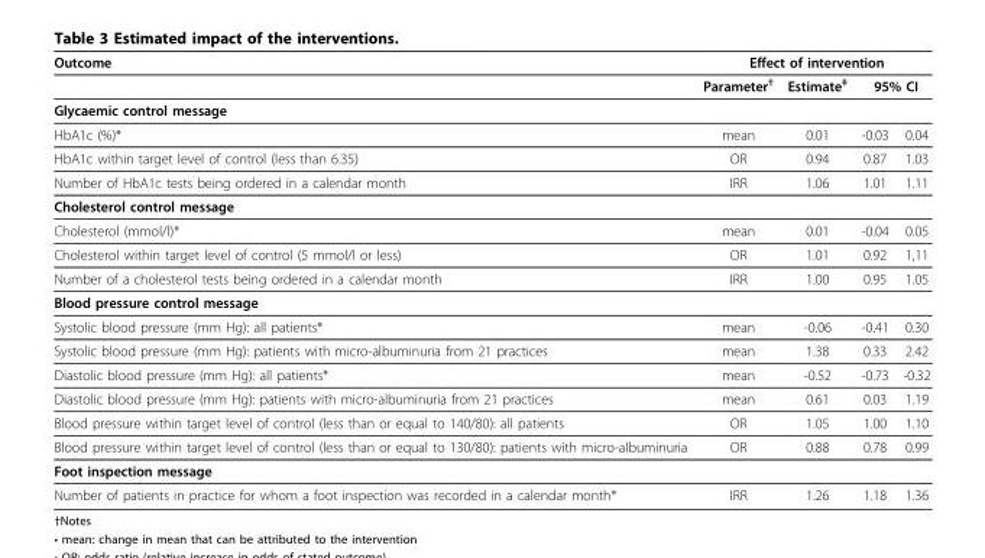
<table><thead><tr><td rowspan="3">Outcome Glycaemic control message</td><td colspan="4">Effect of intervention</td></tr><tr><td rowspan="2">Parameter†</td><td rowspan="2">Estimate‡</td><td colspan="2">95% CI</td></tr><tr><td></td><td></td></tr></thead><tbody><tr><td>HbA1c (%)*</td><td>mean</td><td>0.01</td><td>-0.03</td><td>0.04</td></tr><tr><td>HbA1c within target level of control (less than 6.35)</td><td>OR</td><td>0.94</td><td>0.87</td><td>1.03</td></tr><tr><td>Number of HbA1c tests being ordered in a calendar month</td><td>IRR</td><td>1.06</td><td>1.01</td><td>1.11</td></tr><tr><td colspan="5">Cholesterol control message</td></tr><tr><td>Cholesterol (mmol/l)*</td><td>mean</td><td>0.01</td><td>-0.04</td><td>0.05</td></tr><tr><td>Cholesterol within target level of control (5 mmol/l or less)</td><td>OR</td><td>1.01</td><td>0.92</td><td>1,11</td></tr><tr><td>Number of a cholesterol tests being ordered in a calendar month</td><td>IRR</td><td>1.00</td><td>0.95</td><td>1.05</td></tr><tr><td colspan="5">Blood pressure control message</td></tr><tr><td>Systolic blood pressure (mm Hg): all patients*</td><td>mean</td><td>-0.06</td><td>-0.41</td><td>0.30</td></tr><tr><td>Systolic blood pressure (mm Hg): patients with micro-albuminuria from 21 practices</td><td>mean</td><td>1.38</td><td>0.33</td><td>2.42</td></tr><tr><td>Diastolic blood pressure (mm Hg): all patients*</td><td>mean</td><td>-0.52</td><td>-0.73</td><td>-0.32</td></tr><tr><td>Diastolic blood pressure (mm Hg): patients with micro-albuminuria from 21 practices</td><td>mean</td><td>0.61</td><td>0.03</td><td>1.19</td></tr><tr><td>Blood pressure within target level of control (less than or equal to 140/80): all patients</td><td>OR</td><td>1.05</td><td>1.00</td><td>1.10</td></tr><tr><td>Blood pressure within target level of control (less than or equal to 130/80): patients with micro-albuminuria</td><td>OR</td><td>0.88</td><td>0.78</td><td>0.99</td></tr><tr><td colspan="5">Foot inspection message</td></tr><tr><td>Number of patients in practice for whom a foot inspection was recorded in a calendar month*</td><td>IRR</td><td>1.26</td><td>1.18</td><td>1.36</td></tr></tbody></table>